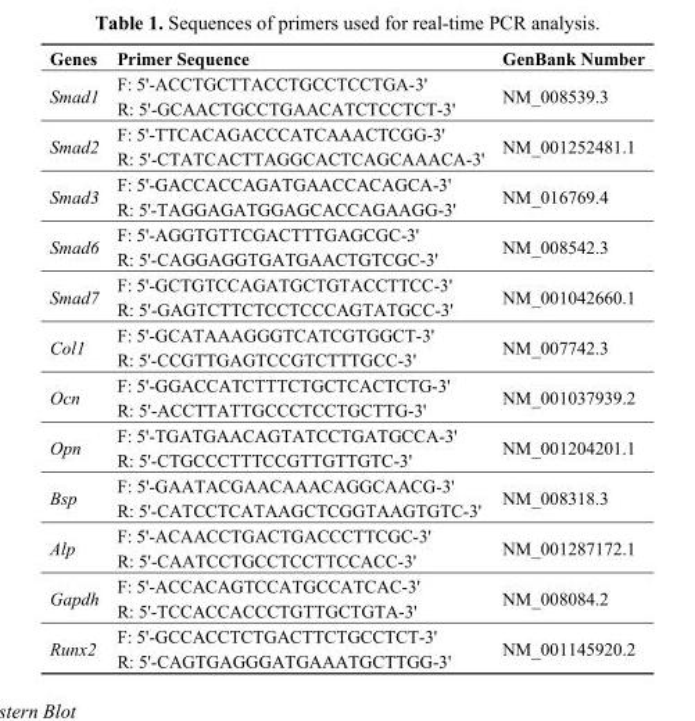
<table><thead><tr><td>Genes</td><td>Primer Sequence</td><td>GenBank Number</td></tr></thead><tbody><tr><td rowspan="2">Smad1</td><td>F: 5&#x27;-ACCTGCTTACCTGCCTCCTGA-3&#x27;</td><td rowspan="2">NM_008539.3</td></tr><tr><td>R: 5&#x27;-GCAACTGCCTGAACATCTCCTCT-3&#x27;</td></tr><tr><td rowspan="2">Smad2</td><td>F: 5&#x27;-TTCACAGACCCATCAAACTCGG-3&#x27;</td><td rowspan="2">NM_001252481.1</td></tr><tr><td>R: 5&#x27;-CTATCACTTAGGCACTCAGCAAACA-3&#x27;</td></tr><tr><td rowspan="2">Smad3</td><td>F: 5&#x27;-GACCACCAGATGAACCACAGCA-3&#x27;</td><td rowspan="2">NM_016769.4</td></tr><tr><td>R: 5&#x27;-TAGGAGATGGAGCACCAGAAGG-3&#x27;</td></tr><tr><td rowspan="2">Smad6</td><td>F: 5&#x27;-AGGTGTTCGACTTTGAGCGC-3&#x27;</td><td rowspan="2">NM_008542.3</td></tr><tr><td>R: 5&#x27;-CAGGAGGTGATGAACTGTCGC-3&#x27;</td></tr><tr><td rowspan="2">Smad7</td><td>F: 5&#x27;-GCTGTCCAGATGCTGTACCTTCC-3&#x27;</td><td rowspan="2">NM_001042660.1</td></tr><tr><td>R: 5&#x27;-GAGTCTTCTCCTCCCAGTATGCC-3&#x27;</td></tr><tr><td rowspan="2">Col1</td><td>F: 5&#x27;-GCATAAAGGGTCATCGTGGCT-3&#x27;</td><td rowspan="2">NM_007742.3</td></tr><tr><td>R: 5&#x27;-CCGTTGAGTCCGTCTTTGCC-3&#x27;</td></tr><tr><td rowspan="2">Ocn</td><td>F: 5&#x27;-GGACCATCTTTCTGCTCACTCTG-3&#x27;</td><td rowspan="2">NM_001037939.2</td></tr><tr><td>R: 5&#x27;-ACCTTATTGCCCTCCTGCTTG-3&#x27;</td></tr><tr><td rowspan="2">Opn</td><td>F: 5&#x27;-TGATGAACAGTATCCTGATGCCA-3&#x27;</td><td rowspan="2">NM_001204201.1</td></tr><tr><td>R: 5&#x27;-CTGCCCTTTCCGTTGTTGTC-3&#x27;</td></tr><tr><td rowspan="2">Bsp</td><td>F: 5&#x27;-GAATACGAACAAACAGGCAACG-3&#x27;</td><td rowspan="2">NM_008318.3</td></tr><tr><td>R: 5&#x27;-CATCCTCATAAGCTCGGTAAGTGTC-3&#x27;</td></tr><tr><td rowspan="2">Alp</td><td>F: 5&#x27;-ACAACCTGACTGACCCTTCGC-3&#x27;</td><td rowspan="2">NM_001287172.1</td></tr><tr><td>R: 5&#x27;-CAATCCTGCCTCCTTCCACC-3&#x27;</td></tr><tr><td rowspan="2">Gapdh</td><td>F: 5&#x27;-ACCACAGTCCATGCCATCAC-3&#x27;</td><td rowspan="2">NM_008084.2</td></tr><tr><td>R: 5&#x27;-TCCACCACCCTGTTGCTGTA-3&#x27;</td></tr><tr><td rowspan="2">Runx2</td><td>F: 5&#x27;-GCCACCTCTGACTTCTGCCTCT-3&#x27;</td><td rowspan="2">NM_001145920.2</td></tr><tr><td>R: 5&#x27;-CAGTGAGGGATGAAATGCTTGG-3&#x27;</td></tr></tbody></table>